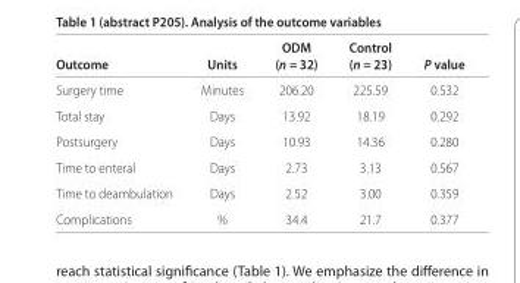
<table><thead><tr><td>Outcome</td><td>Units</td><td>(n = 32)</td><td>(n = 23)</td><td>P value</td></tr></thead><tbody><tr><td>Surgery time</td><td>Minutes</td><td>206.20</td><td>225.59</td><td>0.532</td></tr><tr><td>Total stay</td><td>Days</td><td>13.92</td><td>18.19</td><td>0.292</td></tr><tr><td>Postsurgery</td><td>Days</td><td>10.93</td><td>14.36</td><td>0.280</td></tr><tr><td>Time to enteral</td><td>Days</td><td>2.73</td><td>3.13</td><td>0.567</td></tr><tr><td>Time to deambulation</td><td>Days</td><td>2.52</td><td>3.00</td><td>0.359</td></tr><tr><td>Complications</td><td>%</td><td>34.4</td><td>21.7</td><td>0.377</td></tr></tbody></table>